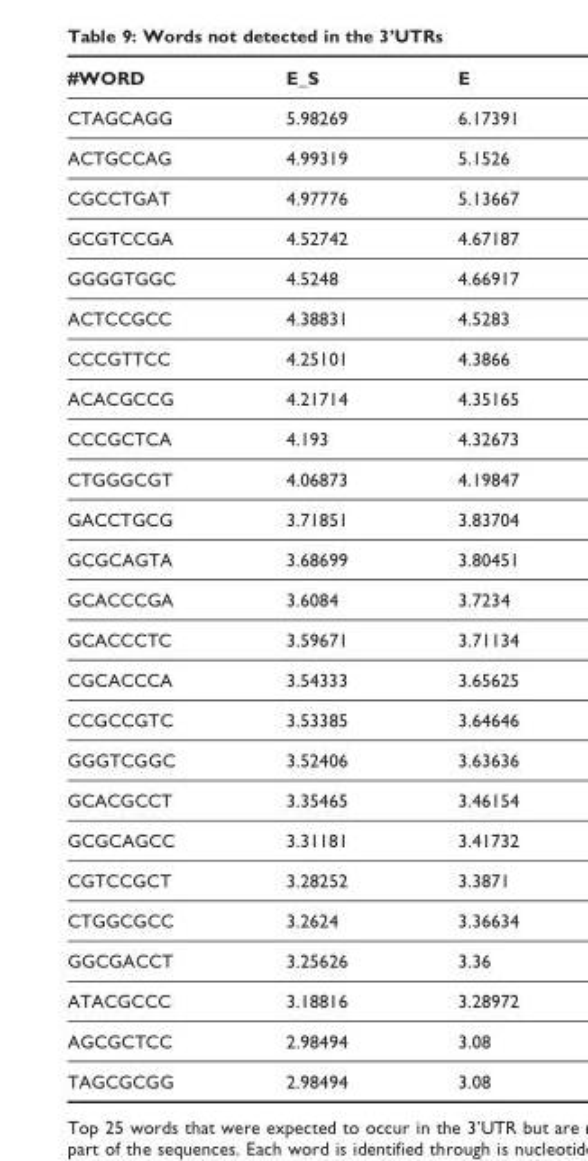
<table><thead><tr><td>#WORD</td><td>E_S</td><td>E</td></tr></thead><tbody><tr><td>CTAGCAGG</td><td>5.98269</td><td>6.17391</td></tr><tr><td>ACTGCCAG</td><td>4.99319</td><td>5.1526</td></tr><tr><td>CGCCTGAT</td><td>4.97776</td><td>5.13667</td></tr><tr><td>GCGTCCGA</td><td>4.52742</td><td>4.67187</td></tr><tr><td>GGGGTGGC</td><td>4.5248</td><td>4.66917</td></tr><tr><td>ACTCCGCC</td><td>4.38831</td><td>4.5283</td></tr><tr><td>CCCGTTCC</td><td>4.25101</td><td>4.3866</td></tr><tr><td>ACACGCCG</td><td>4.21714</td><td>4.35165</td></tr><tr><td>CCCGCTCA</td><td>4.193</td><td>4.32673</td></tr><tr><td>CTGGGCGT</td><td>4.06873</td><td>4.19847</td></tr><tr><td>GACCTGCG</td><td>3.71851</td><td>3.83704</td></tr><tr><td>GCGCAGTA</td><td>3.68699</td><td>3.80451</td></tr><tr><td>GCACCCGA</td><td>3.6084</td><td>3.7234</td></tr><tr><td>GCACCCTC</td><td>3.59671</td><td>3.71134</td></tr><tr><td>CGCACCCA</td><td>3.54333</td><td>3.65625</td></tr><tr><td>CCGCCGTC</td><td>3.53385</td><td>3.64646</td></tr><tr><td>GGGTCGGC</td><td>3.52406</td><td>3.63636</td></tr><tr><td>GCACGCCT</td><td>3.35465</td><td>3.46154</td></tr><tr><td>GCGCAGCC</td><td>3.31181</td><td>3.41732</td></tr><tr><td>CGTCCGCT</td><td>3.28252</td><td>3.3871</td></tr><tr><td>CTGGCGCC</td><td>3.2624</td><td>3.36634</td></tr><tr><td>GGCGACCT</td><td>3.25626</td><td>3.36</td></tr><tr><td>ATACGCCC</td><td>3.18816</td><td>3.28972</td></tr><tr><td>AGCGCTCC</td><td>2.98494</td><td>3.08</td></tr><tr><td>TAGCGCGG</td><td>2.98494</td><td>3.08</td></tr></tbody></table>